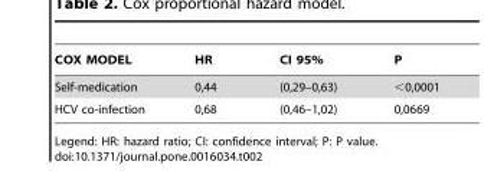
<table><thead><tr><td>COX MODEL</td><td>HR</td><td>CI 95%</td><td>P</td></tr></thead><tbody><tr><td>Self-medication</td><td>0,44</td><td>(0,29–0,63)</td><td>&lt;0,0001</td></tr><tr><td>HCV co-infection</td><td>0,68</td><td>(0,46–1,02)</td><td>0,0669</td></tr></tbody></table>